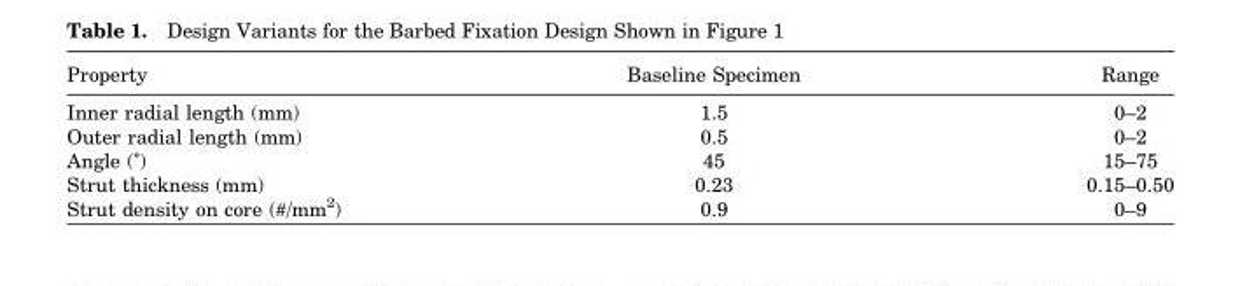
<table><thead><tr><td>Property</td><td>Baseline Specimen</td><td>Range</td></tr></thead><tbody><tr><td>Inner radial length (mm)</td><td>1.5</td><td>0–2</td></tr><tr><td>Outer radial length (mm)</td><td>0.5</td><td>0–2</td></tr><tr><td>Angle (˚)</td><td>45</td><td>15–75</td></tr><tr><td>Strut thickness (mm)</td><td>0.23</td><td>0.15–0.50</td></tr><tr><td>Strut density on core (#/mm<sup>2</sup>)</td><td>0.9</td><td>0–9</td></tr></tbody></table>